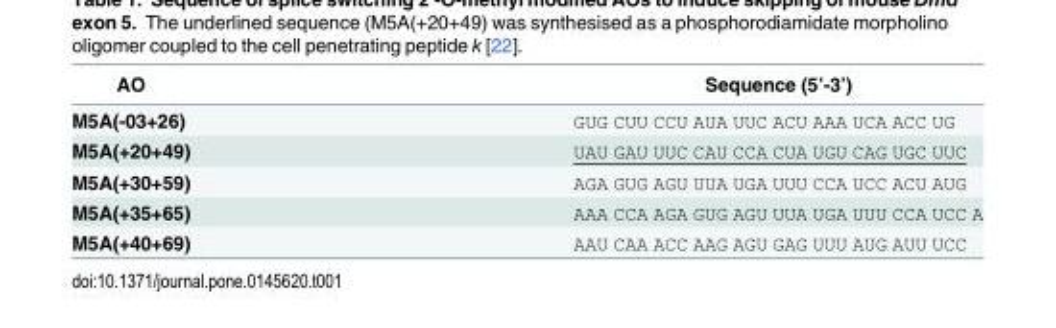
<table><thead><tr><td>AO</td><td>Sequence (5’-3’)</td></tr></thead><tbody><tr><td>M5A(-03+26)</td><td>GUG CUU CCU AUA UUC ACU AAA UCA ACC UG</td></tr><tr><td>M5A(+20+49)</td><td>UAU GAU UUC CAU CCA CUA UGU CAG UGC UUC</td></tr><tr><td>M5A(+30+59)</td><td>AGA GUG AGU UUA UGA UUU CCA UCC ACU AUG</td></tr><tr><td>M5A(+35+65)</td><td>AAA CCA AGA GUG AGU UUA UGA UUU CCA UCC A</td></tr><tr><td>M5A(+40+69)</td><td>AAU CAA ACC AAG AGU GAG UUU AUG AUU UCC</td></tr></tbody></table>